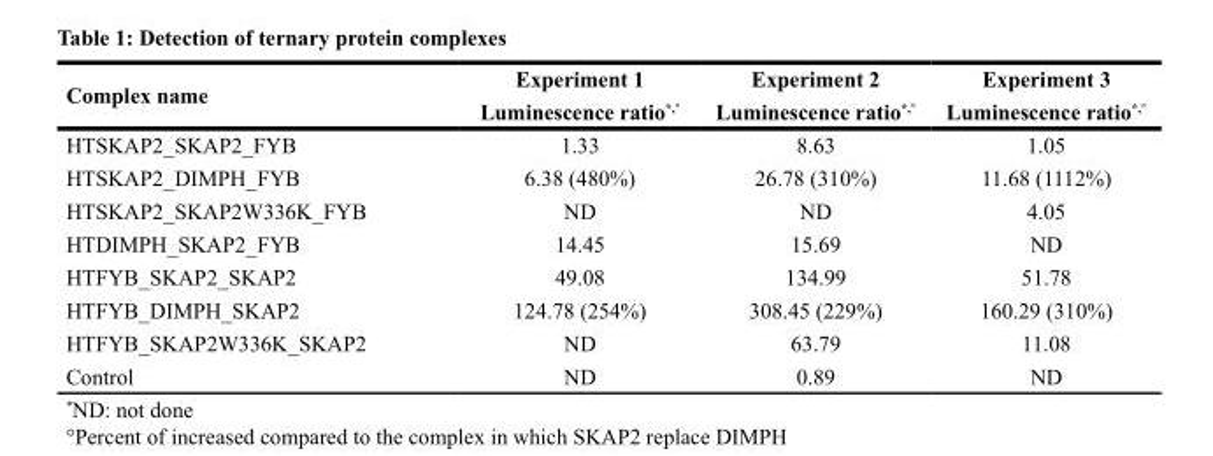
<table><thead><tr><td>Complex name</td><td>Experiment 1 Luminescence ratio<sup>*,°</sup></td><td>Experiment 2 Luminescence ratio<sup>*,°</sup></td><td>Experiment 3 Luminescence ratio<sup>*,°</sup></td></tr></thead><tbody><tr><td>HTSKAP2_SKAP2_FYB</td><td>1.33</td><td>8.63</td><td>1.05</td></tr><tr><td>HTSKAP2_DIMPH_FYB</td><td>6.38 (480%)</td><td>26.78 (310%)</td><td>11.68 (1112%)</td></tr><tr><td>HTSKAP2_SKAP2W336K_FYB</td><td>ND</td><td>ND</td><td>4.05</td></tr><tr><td>HTDIMPH_SKAP2_FYB</td><td>14.45</td><td>15.69</td><td>ND</td></tr><tr><td>HTFYB_SKAP2_SKAP2</td><td>49.08</td><td>134.99</td><td>51.78</td></tr><tr><td>HTFYB_DIMPH_SKAP2</td><td>124.78 (254%)</td><td>308.45 (229%)</td><td>160.29 (310%)</td></tr><tr><td>HTFYB_SKAP2W336K_SKAP2</td><td>ND</td><td>63.79</td><td>11.08</td></tr><tr><td>Control</td><td>ND</td><td>0.89</td><td>ND</td></tr></tbody></table>